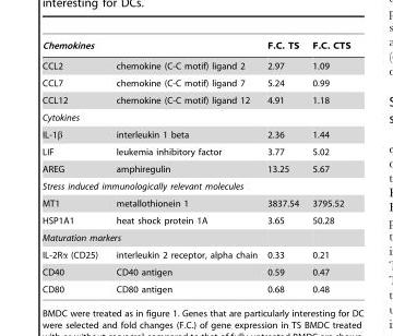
<table><thead><tr><td colspan="2">Chemokines</td><td rowspan="2">F.C. TS 2.97</td><td rowspan="2">F.C. CTS 1.09</td></tr><tr><td>CCL2</td><td>chemokine (C-C motif) ligand 2</td></tr></thead><tbody><tr><td>CCL7</td><td>chemokine (C-C motif) ligand 7</td><td>5.24</td><td>0.99</td></tr><tr><td>CCL12</td><td>chemokine (C-C motif) ligand 12</td><td>4.91</td><td>1.18</td></tr><tr><td colspan="4">Cytokines</td></tr><tr><td>IL-1β</td><td>interleukin 1 beta</td><td>2.36</td><td>1.44</td></tr><tr><td>LIF</td><td>leukemia inhibitory factor</td><td>3.77</td><td>5.02</td></tr><tr><td>AREG</td><td>amphiregulin</td><td>13.25</td><td>5.67</td></tr><tr><td colspan="4">Stress induced immunologically relevant molecules</td></tr><tr><td>MT1</td><td>metallothionein 1</td><td>3837.54</td><td>3795.52</td></tr><tr><td>HSP1A1</td><td>heat shock protein 1A</td><td>3.65</td><td>50.28</td></tr><tr><td colspan="4">Maturation markers</td></tr><tr><td>IL-2Rα (CD25)</td><td>interleukin 2 receptor, alpha chain</td><td>0.33</td><td>0.21</td></tr><tr><td>CD40</td><td>CD40 antigen</td><td>0.59</td><td>0.47</td></tr><tr><td>CD80</td><td>CD80 antigen</td><td>0.68</td><td>0.48</td></tr></tbody></table>